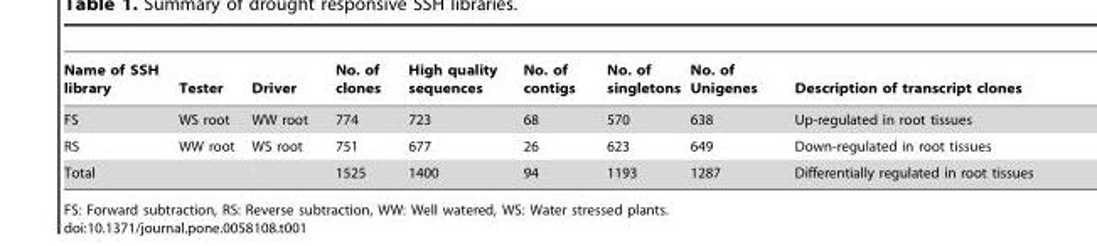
<table><thead><tr><td>Name of SSH library</td><td>Tester</td><td>Driver</td><td>No. of clones</td><td>High quality sequences</td><td>No. of contigs</td><td>No. of singletons</td><td>No. of Unigenes</td><td>Description of transcript clones</td></tr></thead><tbody><tr><td>FS</td><td>WS root</td><td>WW root</td><td>774</td><td>723</td><td>68</td><td>570</td><td>638</td><td>Up-regulated in root tissues</td></tr><tr><td>RS</td><td>WW root</td><td>WS root</td><td>751</td><td>677</td><td>26</td><td>623</td><td>649</td><td>Down-regulated in root tissues</td></tr><tr><td>Total</td><td></td><td></td><td>1525</td><td>1400</td><td>94</td><td>1193</td><td>1287</td><td>Differentially regulated in root tissues</td></tr></tbody></table>